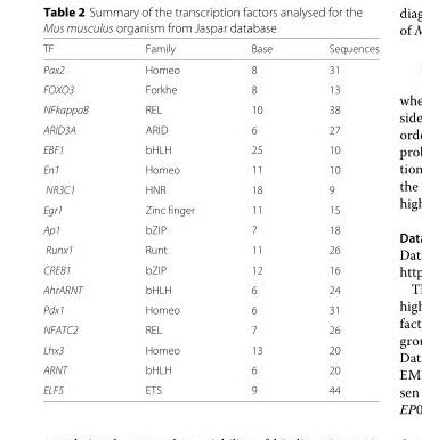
<table><thead><tr><td>TF</td><td>Family</td><td>Base</td><td>Sequences</td></tr></thead><tbody><tr><td>Pax2</td><td>Homeo</td><td>8</td><td>31</td></tr><tr><td>FOXO3</td><td>Forkhe</td><td>8</td><td>13</td></tr><tr><td>NFkappaB</td><td>REL</td><td>10</td><td>38</td></tr><tr><td>ARID3A</td><td>ARID</td><td>6</td><td>27</td></tr><tr><td>EBF1</td><td>bHLH</td><td>25</td><td>10</td></tr><tr><td>En1</td><td>Homeo</td><td>11</td><td>10</td></tr><tr><td>NR3C1</td><td>HNR</td><td>18</td><td>9</td></tr><tr><td>Egr1</td><td>Zinc finger</td><td>11</td><td>15</td></tr><tr><td>Ap1</td><td>bZIP</td><td>7</td><td>18</td></tr><tr><td>Runx1</td><td>Runt</td><td>11</td><td>26</td></tr><tr><td>CREB1</td><td>bZIP</td><td>12</td><td>16</td></tr><tr><td>AhrARNT</td><td>bHLH</td><td>6</td><td>24</td></tr><tr><td>Pdx1</td><td>Homeo</td><td>6</td><td>31</td></tr><tr><td>NFATC2</td><td>REL</td><td>7</td><td>26</td></tr><tr><td>Lhx3</td><td>Homeo</td><td>13</td><td>20</td></tr><tr><td>ARNT</td><td>bHLH</td><td>6</td><td>20</td></tr><tr><td>ELF5</td><td>ETS</td><td>9</td><td>44</td></tr></tbody></table>